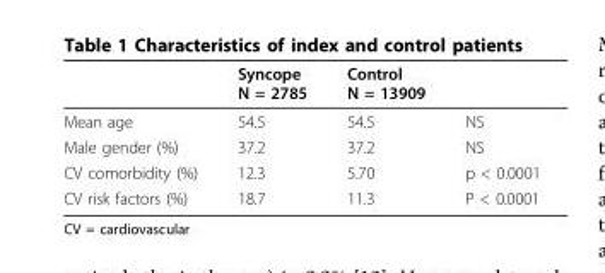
<table><thead><tr><td></td><td>Syncope N = 2785</td><td>Control N = 13909</td><td></td></tr></thead><tbody><tr><td>Mean age</td><td>54.5</td><td>54.5</td><td>NS</td></tr><tr><td>Male gender (%)</td><td>37.2</td><td>37.2</td><td>NS</td></tr><tr><td>CV comorbidity (%)</td><td>12.3</td><td>5.70</td><td>p &lt; 0.0001</td></tr><tr><td>CV risk factors (%)</td><td>18.7</td><td>11.3</td><td>P &lt; 0.0001</td></tr></tbody></table>